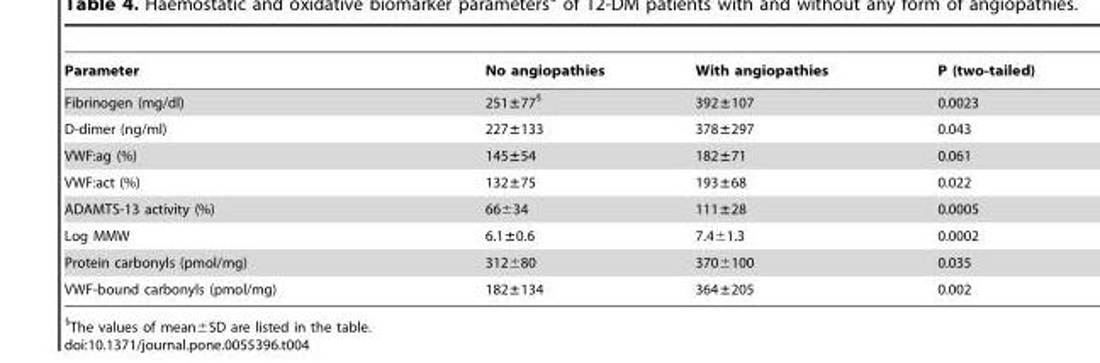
<table><thead><tr><td>Parameter</td><td>No angiopathies</td><td>With angiopathies</td><td>P (two-tailed)</td></tr></thead><tbody><tr><td>Fibrinogen (mg/dl)</td><td>251±77§</td><td>392±107</td><td>0.0023</td></tr><tr><td>D-dimer (ng/ml)</td><td>227±133</td><td>378±297</td><td>0.043</td></tr><tr><td>VWF:ag (%)</td><td>145±54</td><td>182±71</td><td>0.061</td></tr><tr><td>VWF:act (%)</td><td>132±75</td><td>193±68</td><td>0.022</td></tr><tr><td>ADAMTS-13 activity (%)</td><td>66±34</td><td>111±28</td><td>0.0005</td></tr><tr><td>Log MMW</td><td>6.1±0.6</td><td>7.4±1.3</td><td>0.0002</td></tr><tr><td>Protein carbonyls (pmol/mg)</td><td>312±80</td><td>370±100</td><td>0.035</td></tr><tr><td>VWF-bound carbonyls (pmol/mg)</td><td>182±134</td><td>364±205</td><td>0.002</td></tr></tbody></table>